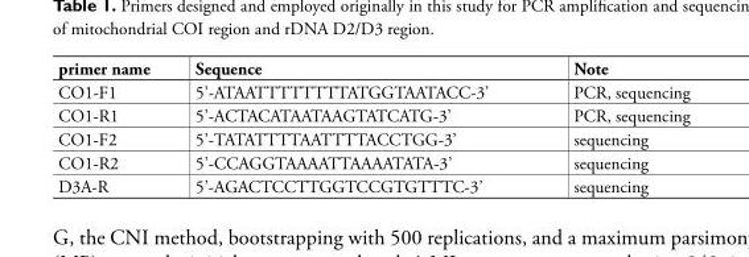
<table><thead><tr><td>primer name</td><td>Sequence</td><td>Note</td></tr></thead><tbody><tr><td>CO1-F1</td><td>5’-ATAATTTTTTTTATGGTAATACC-3’</td><td>PCR, sequencing</td></tr><tr><td>CO1-R1</td><td>5’-ACTACATAATAAGTATCATG-3’</td><td>PCR, sequencing</td></tr><tr><td>CO1-F2</td><td>5’-TATATTTTAATTTTACCTGG-3’</td><td>sequencing</td></tr><tr><td>CO1-R2</td><td>5’-CCAGGTAAAATTAAAATATA-3’</td><td>sequencing</td></tr><tr><td>D3A-R</td><td>5’-AGACTCCTTGGTCCGTGTTTC-3’</td><td>sequencing</td></tr></tbody></table>